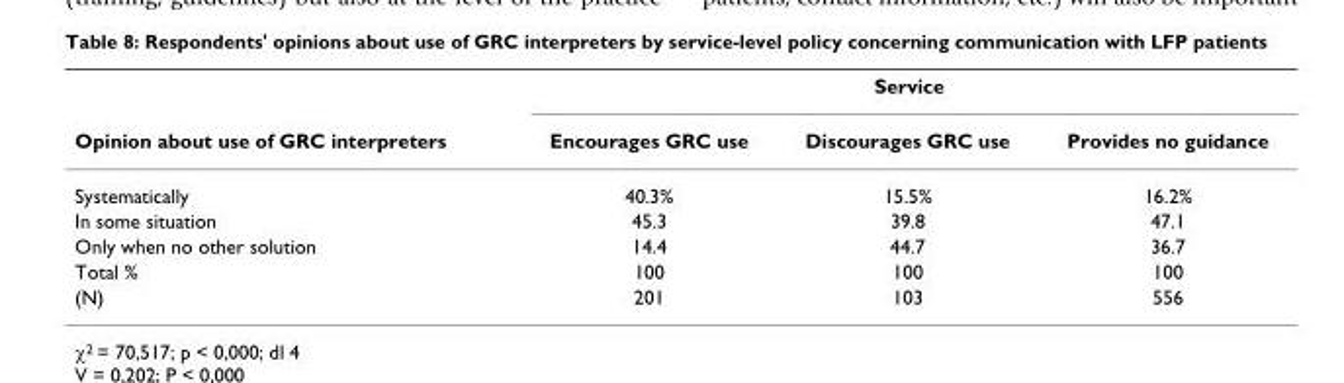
<table><thead><tr><td rowspan="2">Opinion about use of GRC interpreters</td><td colspan="3">Service</td></tr><tr><td>Encourages GRC use</td><td>Discourages GRC use</td><td>Provides no guidance</td></tr></thead><tbody><tr><td>Systematically</td><td>40.3%</td><td>15.5%</td><td>16.2%</td></tr><tr><td>In some situation</td><td>45.3</td><td>39.8</td><td>47.1</td></tr><tr><td>Only when no other solution</td><td>14.4</td><td>44.7</td><td>36.7</td></tr><tr><td>Total %</td><td>100</td><td>100</td><td>100</td></tr><tr><td>(N)</td><td>201</td><td>103</td><td>556</td></tr></tbody></table>